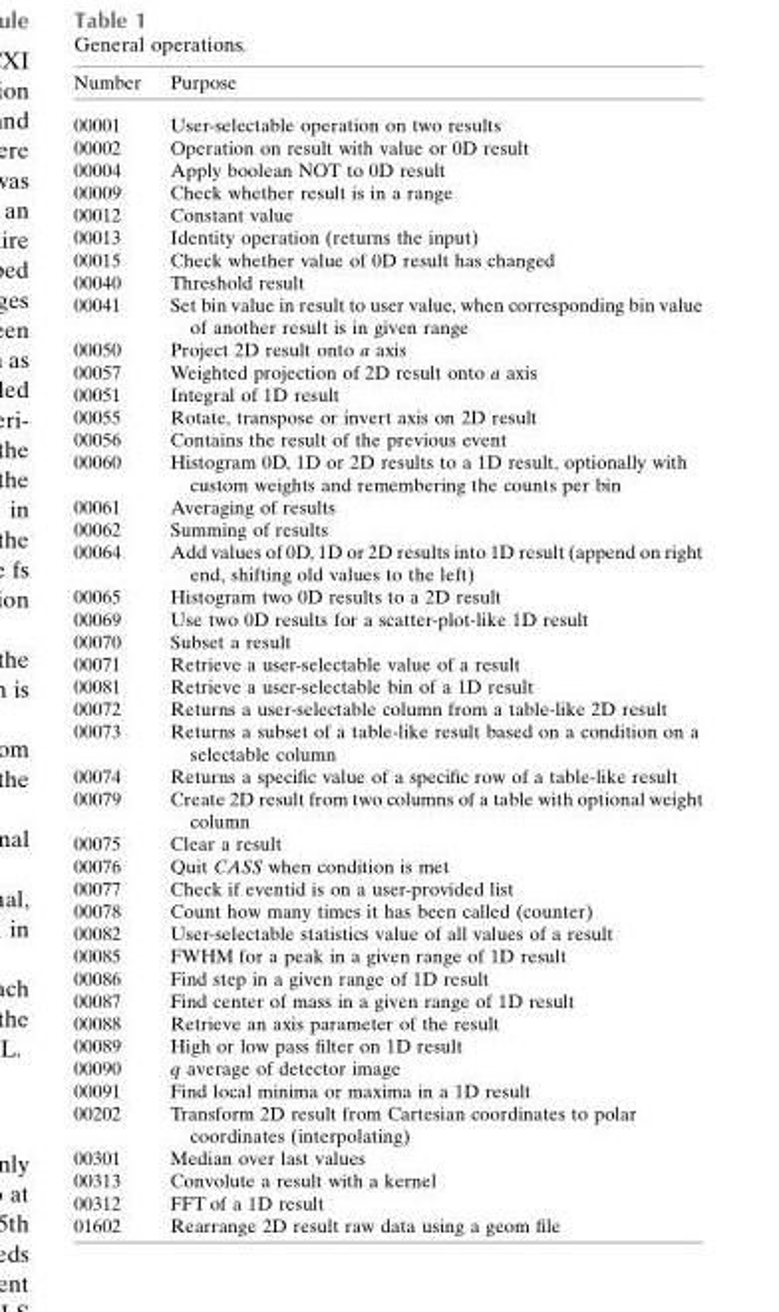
<table><thead><tr><td>Number</td><td>Purpose</td></tr></thead><tbody><tr><td>00001</td><td>User-selectable operation on two results</td></tr><tr><td>00002</td><td>Operation on result with value or 0D result</td></tr><tr><td>00004</td><td>Apply boolean NOT to 0D result</td></tr><tr><td>00009</td><td>Check whether result is in a range</td></tr><tr><td>00012</td><td>Constant value</td></tr><tr><td>00013</td><td>Identity operation (returns the input)</td></tr><tr><td>00015</td><td>Check whether value of 0D result has changed</td></tr><tr><td>00040</td><td>Threshold result</td></tr><tr><td>00041</td><td>Set bin value in result to user value, when corresponding bin value of another result is in given range</td></tr><tr><td>00050</td><td>Project 2D result onto a axis</td></tr><tr><td>00057</td><td>Weighted projection of 2D result onto a axis</td></tr><tr><td>00051</td><td>Integral of 1D result</td></tr><tr><td>00055</td><td>Rotate, transpose or invert axis on 2D result</td></tr><tr><td>00056</td><td>Contains the result of the previous event</td></tr><tr><td>00060</td><td>Histogram 0D, 1D or 2D results to a 1D result, optionally with custom weights and remembering the counts per bin</td></tr><tr><td>00061</td><td>Averaging of results</td></tr><tr><td>00062</td><td>Summing of results</td></tr><tr><td>00064</td><td>Add values of 0D, 1D or 2D results into 1D result (append on right end, shifting old values to the left)</td></tr><tr><td>00065</td><td>Histogram two 0D results to a 2D result</td></tr><tr><td>00069</td><td>Use two 0D results for a scatter-plot-like 1D result</td></tr><tr><td>00070</td><td>Subset a result</td></tr><tr><td>00071</td><td>Retrieve a user-selectable value of a result</td></tr><tr><td>00081</td><td>Retrieve a user-selectable bin of a 1D result</td></tr><tr><td>00072</td><td>Returns a user-selectable column from a table-like 2D result</td></tr><tr><td>00073</td><td>Returns a subset of a table-like result based on a condition on a selectable column</td></tr><tr><td>00074</td><td>Returns a specific value of a specific row of a table-like result</td></tr><tr><td>00079</td><td>Create 2D result from two columns of a table with optional weight column</td></tr><tr><td>00075</td><td>Clear a result</td></tr><tr><td>00076</td><td>Quit CASS when condition is met</td></tr><tr><td>00077</td><td>Check if eventid is on a user-provided list</td></tr><tr><td>00078</td><td>Count how many times it has been called (counter)</td></tr><tr><td>00082</td><td>User-selectable statistics value of all values of a result</td></tr><tr><td>00085</td><td>FWHM for a peak in a given range of 1D result</td></tr><tr><td>00086</td><td>Find step in a given range of 1D result</td></tr><tr><td>00087</td><td>Find center of mass in a given range of 1D result</td></tr><tr><td>00088</td><td>Retrieve an axis parameter of the result</td></tr><tr><td>00089</td><td>High or low pass filter on 1D result</td></tr><tr><td>00090</td><td>q average of detector image</td></tr><tr><td>00091</td><td>Find local minima or maxima in a 1D result</td></tr><tr><td>00202</td><td>Transform 2D result from Cartesian coordinates to polar coordinates (interpolating)</td></tr><tr><td>00301</td><td>Median over last values</td></tr><tr><td>00313</td><td>Convolute a result with a kernel</td></tr><tr><td>00312</td><td>FFT of a 1D result</td></tr><tr><td>01602</td><td>Rearrange 2D result raw data using a geom file</td></tr></tbody></table>